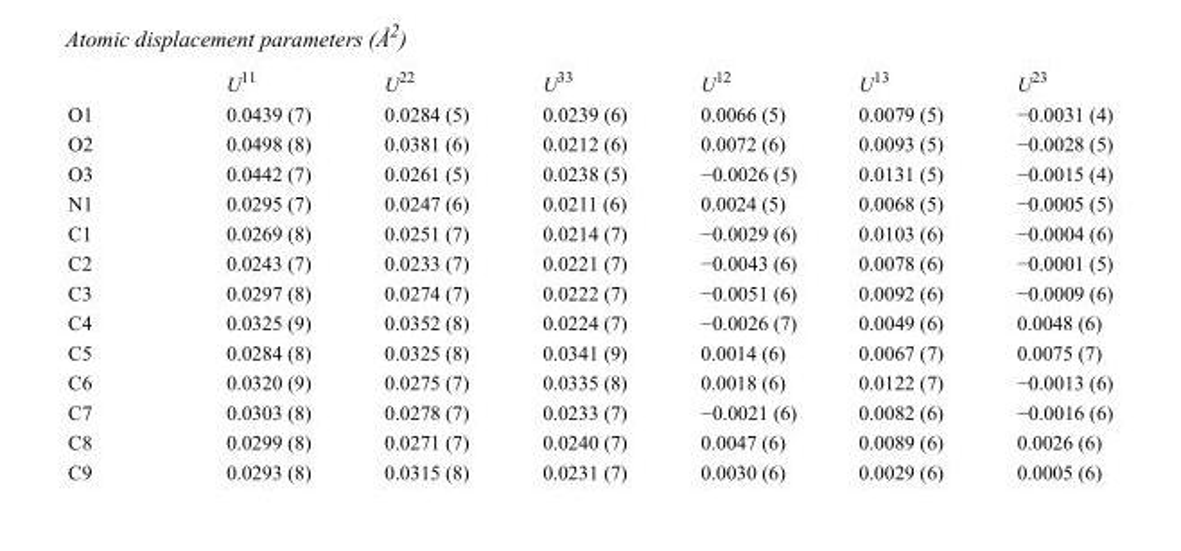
<table><thead><tr><td></td><td>U<sup>11</sup></td><td>U<sup>22</sup></td><td>U<sup>33</sup></td><td>U<sup>12</sup></td><td>U<sup>13</sup></td><td>U<sup>23</sup></td></tr></thead><tbody><tr><td>O1</td><td>0.0439 (7)</td><td>0.0284 (5)</td><td>0.0239 (6)</td><td>0.0066 (5)</td><td>0.0079 (5)</td><td>−0.0031 (4)</td></tr><tr><td>O2</td><td>0.0498 (8)</td><td>0.0381 (6)</td><td>0.0212 (6)</td><td>0.0072 (6)</td><td>0.0093 (5)</td><td>−0.0028 (5)</td></tr><tr><td>O3</td><td>0.0442 (7)</td><td>0.0261 (5)</td><td>0.0238 (5)</td><td>−0.0026 (5)</td><td>0.0131 (5)</td><td>−0.0015 (4)</td></tr><tr><td>N1</td><td>0.0295 (7)</td><td>0.0247 (6)</td><td>0.0211 (6)</td><td>0.0024 (5)</td><td>0.0068 (5)</td><td>−0.0005 (5)</td></tr><tr><td>C1</td><td>0.0269 (8)</td><td>0.0251 (7)</td><td>0.0214 (7)</td><td>−0.0029 (6)</td><td>0.0103 (6)</td><td>−0.0004 (6)</td></tr><tr><td>C2</td><td>0.0243 (7)</td><td>0.0233 (7)</td><td>0.0221 (7)</td><td>−0.0043 (6)</td><td>0.0078 (6)</td><td>−0.0001 (5)</td></tr><tr><td>C3</td><td>0.0297 (8)</td><td>0.0274 (7)</td><td>0.0222 (7)</td><td>−0.0051 (6)</td><td>0.0092 (6)</td><td>−0.0009 (6)</td></tr><tr><td>C4</td><td>0.0325 (9)</td><td>0.0352 (8)</td><td>0.0224 (7)</td><td>−0.0026 (7)</td><td>0.0049 (6)</td><td>0.0048 (6)</td></tr><tr><td>C5</td><td>0.0284 (8)</td><td>0.0325 (8)</td><td>0.0341 (9)</td><td>0.0014 (6)</td><td>0.0067 (7)</td><td>0.0075 (7)</td></tr><tr><td>C6</td><td>0.0320 (9)</td><td>0.0275 (7)</td><td>0.0335 (8)</td><td>0.0018 (6)</td><td>0.0122 (7)</td><td>−0.0013 (6)</td></tr><tr><td>C7</td><td>0.0303 (8)</td><td>0.0278 (7)</td><td>0.0233 (7)</td><td>−0.0021 (6)</td><td>0.0082 (6)</td><td>−0.0016 (6)</td></tr><tr><td>C8</td><td>0.0299 (8)</td><td>0.0271 (7)</td><td>0.0240 (7)</td><td>0.0047 (6)</td><td>0.0089 (6)</td><td>0.0026 (6)</td></tr><tr><td>C9</td><td>0.0293 (8)</td><td>0.0315 (8)</td><td>0.0231 (7)</td><td>0.0030 (6)</td><td>0.0029 (6)</td><td>0.0005 (6)</td></tr></tbody></table>